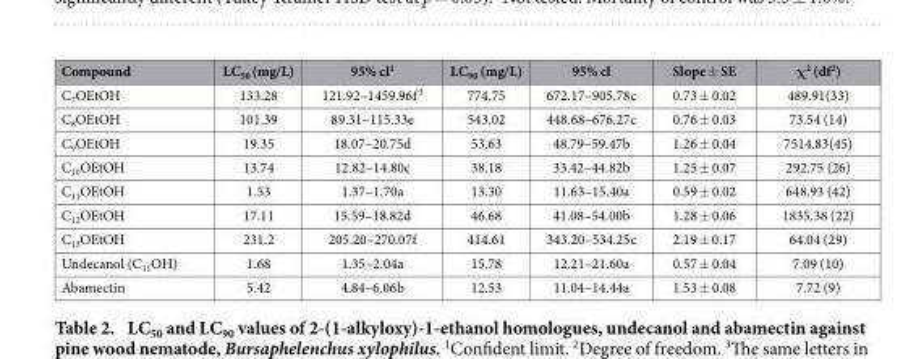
<table><thead><tr><td>Compound</td><td>LC<sub>50</sub> (mg/L)</td><td>95% cl<sup>1</sup></td><td>LC<sub>90</sub> (mg/L)</td><td>95% cl</td><td>Slope ± SE</td><td>χ<sup>2</sup> (df<sup>2</sup>)</td></tr></thead><tbody><tr><td>C<sub>7</sub>OEtOH</td><td>133.28</td><td>121.92–1459.96f 3</td><td>774.75</td><td>672.17–905.78c</td><td>0.73 ± 0.02</td><td>489.91(33)</td></tr><tr><td>C<sub>8</sub>OEtOH</td><td>101.39</td><td>89.31–115.33e</td><td>543.02</td><td>448.68–676.27c</td><td>0.76 ± 0.03</td><td>73.54 (14)</td></tr><tr><td>C<sub>9</sub>OEtOH</td><td>19.35</td><td>18.07–20.75d</td><td>53.63</td><td>48.79–59.47b</td><td>1.26 ± 0.04</td><td>7514.83(45)</td></tr><tr><td>C<sub>10</sub>OEtOH</td><td>13.74</td><td>12.82–14.80c</td><td>38.18</td><td>33.42–44.82b</td><td>1.25 ± 0.07</td><td>292.75 (26)</td></tr><tr><td>C<sub>11</sub>OEtOH</td><td>1.53</td><td>1.37–1.70a</td><td>13.30</td><td>11.63–15.40a</td><td>0.59 ± 0.02</td><td>648.93 (42)</td></tr><tr><td>C<sub>12</sub>OEtOH</td><td>17.11</td><td>15.59–18.82d</td><td>46.68</td><td>41.08–54.00b</td><td>1.28 ± 0.06</td><td>1835.38 (22)</td></tr><tr><td>C<sub>13</sub>OEtOH</td><td>231.2</td><td>205.20–270.07f</td><td>414.61</td><td>343.20–534.25c</td><td>2.19 ± 0.17</td><td>64.04 (29)</td></tr><tr><td>Undecanol (C<sub>11</sub>OH)</td><td>1.68</td><td>1.35–2.04a</td><td>15.78</td><td>12.21–21.60a</td><td>0.57 ± 0.04</td><td>7.09 (10)</td></tr><tr><td>Abamectin</td><td>5.42</td><td>4.84–6.06b</td><td>12.53</td><td>11.04–14.44a</td><td>1.53 ± 0.08</td><td>7.72 (9)</td></tr></tbody></table>